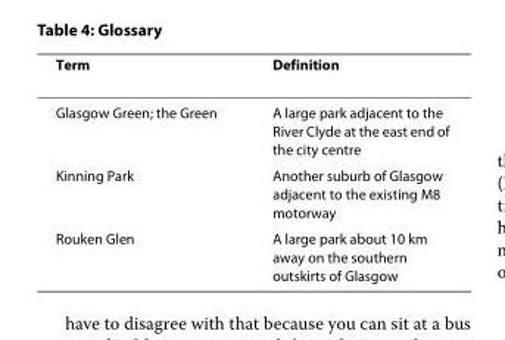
<table><thead><tr><td>Term</td><td>Definition</td></tr></thead><tbody><tr><td>Glasgow Green; the Green</td><td>A large park adjacent to the River Clyde at the east end of the city centre</td></tr><tr><td>Kinning Park</td><td>Another suburb of Glasgow adjacent to the existing M8 motorway</td></tr><tr><td>Rouken Glen</td><td>A large park about 10 km away on the southern outskirts of Glasgow</td></tr></tbody></table>